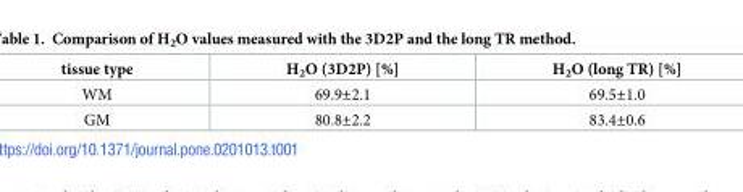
<table><thead><tr><td>tissue type</td><td>H<sub>2</sub>O (3D2P) [%]</td><td>H<sub>2</sub>O (long TR) [%]</td></tr></thead><tbody><tr><td>WM</td><td>69.9±2.1</td><td>69.5±1.0</td></tr><tr><td>GM</td><td>80.8±2.2</td><td>83.4±0.6</td></tr></tbody></table>